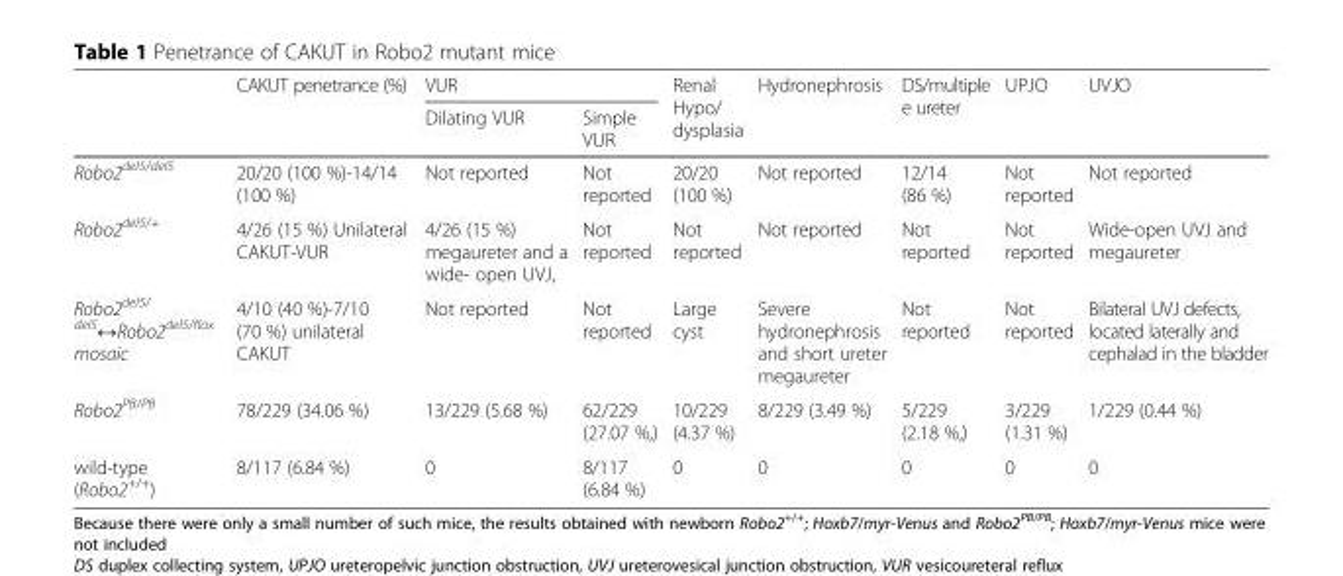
<table><thead><tr><td rowspan="2"></td><td rowspan="2">CAKUT penetrance (%)</td><td colspan="2">VUR</td><td rowspan="2">Renal Hypo/ dysplasia</td><td rowspan="2">Hydronephrosis</td><td rowspan="2">DS/multiple e ureter</td><td rowspan="2">UPJO</td><td rowspan="2">UVJO</td></tr><tr><td>Dilating VUR</td><td>Simple VUR</td></tr></thead><tbody><tr><td>Robo2<sup>del5/del5</sup></td><td>20/20 (100 %)-14/14 (100 %)</td><td>Not reported</td><td>Not reported</td><td>20/20 (100 %)</td><td>Not reported</td><td>12/14 (86 %)</td><td>Not reported</td><td>Not reported</td></tr><tr><td>Robo2<sup>del5/+</sup></td><td>4/26 (15 %) Unilateral CAKUT-VUR</td><td>4/26 (15 %) megaureter and a wide- open UVJ,</td><td>Not reported</td><td>Not reported</td><td>Not reported</td><td>Not reported</td><td>Not reported</td><td>Wide-open UVJ and megaureter</td></tr><tr><td>Robo2<sup>del5/ del5</sup>↔Robo2<sup>del5/flox</sup> mosaic</td><td>4/10 (40 %)-7/10 (70 %) unilateral CAKUT</td><td>Not reported</td><td>Not reported</td><td>Large cyst</td><td>Severe hydronephrosis and short ureter megaureter</td><td>Not reported</td><td>Not reported</td><td>Bilateral UVJ defects, located laterally and cephalad in the bladder</td></tr><tr><td>Robo2<sup>PB/PB</sup></td><td>78/229 (34.06 %)</td><td>13/229 (5.68 %)</td><td>62/229 (27.07 %,)</td><td>10/229 (4.37 %)</td><td>8/229 (3.49 %)</td><td>5/229 (2.18 %,)</td><td>3/229 (1.31 %)</td><td>1/229 (0.44 %)</td></tr><tr><td>wild-type (Robo2<sup>+/+</sup>)</td><td>8/117 (6.84 %)</td><td>0</td><td>8/117 (6.84 %)</td><td>0</td><td>0</td><td>0</td><td>0</td><td>0</td></tr></tbody></table>